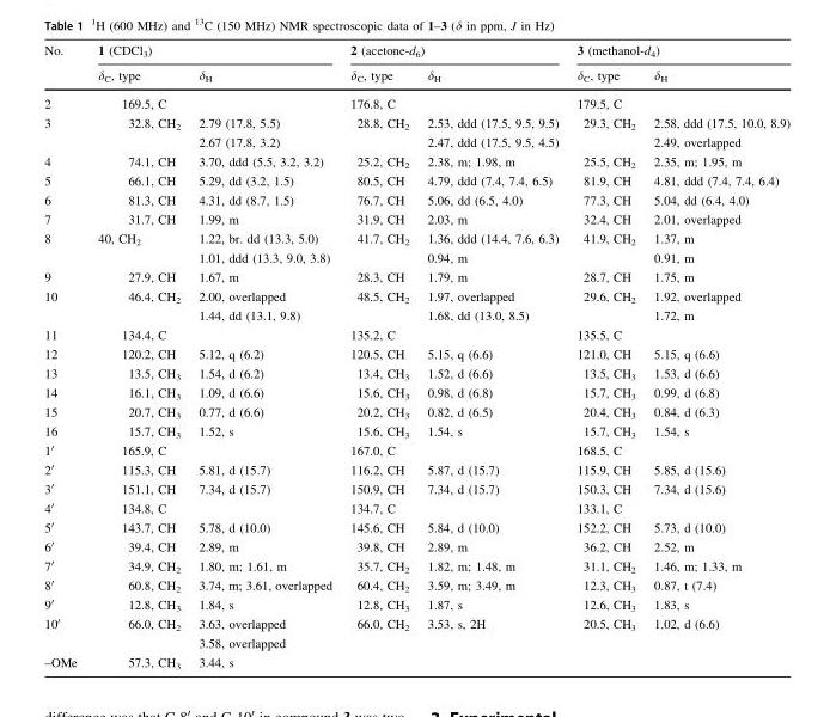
<table><thead><tr><td rowspan="2">No.</td><td colspan="2">1 (CDCl<sub>3</sub>)</td><td colspan="2">2 (acetone-d<sub>6</sub>)</td><td colspan="2">3 (methanol-d<sub>4</sub>)</td></tr><tr><td>δ<sub>C</sub>, type</td><td>δ<sub>H</sub></td><td>δ<sub>C</sub>, type</td><td>δ<sub>H</sub></td><td>δ<sub>C</sub>, type</td><td>δ<sub>H</sub></td></tr></thead><tbody><tr><td>2</td><td>169.5, C</td><td></td><td>176.8, C</td><td></td><td>179.5, C</td><td></td></tr><tr><td rowspan="2">3</td><td rowspan="2">32.8, CH<sub>2</sub></td><td>2.79 (17.8, 5.5)</td><td rowspan="2">28.8, CH<sub>2</sub></td><td>2.53, ddd (17.5, 9.5, 9.5)</td><td rowspan="2">29.3, CH<sub>2</sub></td><td>2.58, ddd (17.5, 10.0, 8.9)</td></tr><tr><td>2.67 (17.8, 3.2)</td><td>2.47, ddd (17.5, 9.5, 4.5)</td><td>2.49, overlapped</td></tr><tr><td>4</td><td>74.1, CH</td><td>3.70, ddd (5.5, 3.2, 3.2)</td><td>25.2, CH<sub>2</sub></td><td>2.38, m; 1.98, m</td><td>25.5, CH<sub>2</sub></td><td>2.35, m; 1.95, m</td></tr><tr><td>5</td><td>66.1, CH</td><td>5.29, dd (3.2, 1.5)</td><td>80.5, CH</td><td>4.79, ddd (7.4, 7.4, 6.5)</td><td>81.9, CH</td><td>4.81, ddd (7.4, 7.4, 6.4)</td></tr><tr><td>6</td><td>81.3, CH</td><td>4.31, dd (8.7, 1.5)</td><td>76.7, CH</td><td>5.06, dd (6.5, 4.0)</td><td>77.3, CH</td><td>5.04, dd (6.4, 4.0)</td></tr><tr><td>7</td><td>31.7, CH</td><td>1.99, m</td><td>31.9, CH</td><td>2.03, m</td><td>32.4, CH</td><td>2.01, overlapped</td></tr><tr><td rowspan="2">8</td><td rowspan="2">40, CH<sub>2</sub></td><td>1.22, br. dd (13.3, 5.0)</td><td rowspan="2">41.7, CH<sub>2</sub></td><td>1.36, ddd (14.4, 7.6, 6.3)</td><td rowspan="2">41.9, CH<sub>2</sub></td><td>1.37, m</td></tr><tr><td>1.01, ddd (13.3, 9.0, 3.8)</td><td>0.94, m</td><td>0.91, m</td></tr><tr><td>9</td><td>27.9, CH</td><td>1.67, m</td><td>28.3, CH</td><td>1.79, m</td><td>28.7, CH</td><td>1.75, m</td></tr><tr><td rowspan="2">10</td><td rowspan="2">46.4, CH<sub>2</sub></td><td>2.00, overlapped</td><td rowspan="2">48.5, CH<sub>2</sub></td><td>1.97, overlapped</td><td rowspan="2">29.6, CH<sub>2</sub></td><td>1.92, overlapped</td></tr><tr><td>1.44, dd (13.1, 9.8)</td><td>1.68, dd (13.0, 8.5)</td><td>1.72, m</td></tr><tr><td>11</td><td>134.4, C</td><td></td><td>135.2, C</td><td></td><td>135.5, C</td><td></td></tr><tr><td>12</td><td>120.2, CH</td><td>5.12, q (6.2)</td><td>120.5, CH</td><td>5.15, q (6.6)</td><td>121.0, CH</td><td>5.15, q (6.6)</td></tr><tr><td>13</td><td>13.5, CH<sub>3</sub></td><td>1.54, d (6.2)</td><td>13.4, CH<sub>3</sub></td><td>1.52, d (6.6)</td><td>13.5, CH<sub>3</sub></td><td>1.53, d (6.6)</td></tr><tr><td>14</td><td>16.1, CH<sub>3</sub></td><td>1.09, d (6.6)</td><td>15.6, CH<sub>3</sub></td><td>0.98, d (6.8)</td><td>15.7, CH<sub>3</sub></td><td>0.99, d (6.8)</td></tr><tr><td>15</td><td>20.7, CH<sub>3</sub></td><td>0.77, d (6.6)</td><td>20.2, CH<sub>3</sub></td><td>0.82, d (6.5)</td><td>20.4, CH<sub>3</sub></td><td>0.84, d (6.3)</td></tr><tr><td>16</td><td>15.7, CH<sub>3</sub></td><td rowspan="2">1.52, s</td><td>15.6, CH<sub>3</sub></td><td rowspan="2">1.54, s</td><td>15.7, CH<sub>3</sub></td><td rowspan="2">1.54, s</td></tr><tr><td>1′</td><td>165.9, C</td><td>167.0, C</td><td>168.5, C</td></tr><tr><td>2′</td><td>115.3, CH</td><td>5.81, d (15.7)</td><td>116.2, CH</td><td>5.87, d (15.7)</td><td>115.9, CH</td><td>5.85, d (15.6)</td></tr><tr><td>3′</td><td>151.1, CH</td><td rowspan="2">7.34, d (15.7)</td><td>150.9, CH</td><td rowspan="2">7.34, d (15.7)</td><td>150.3, CH</td><td rowspan="2">7.34, d (15.6)</td></tr><tr><td>4′</td><td>134.8, C</td><td>134.7, C</td><td>133.1, C</td></tr><tr><td>5′</td><td>143.7, CH</td><td>5.78, d (10.0)</td><td>145.6, CH</td><td>5.84, d (10.0)</td><td>152.2, CH</td><td>5.73, d (10.0)</td></tr><tr><td>6′</td><td>39.4, CH</td><td>2.89, m</td><td>39.8, CH</td><td>2.89, m</td><td>36.2, CH</td><td>2.52, m</td></tr><tr><td>7′</td><td>34.9, CH<sub>2</sub></td><td>1.80, m; 1.61, m</td><td>35.7, CH<sub>2</sub></td><td>1.82, m; 1.48, m</td><td>31.1, CH<sub>2</sub></td><td>1.46, m; 1.33, m</td></tr><tr><td>8′</td><td>60.8, CH<sub>2</sub></td><td>3.74, m; 3.61, overlapped</td><td>60.4, CH<sub>2</sub></td><td>3.59, m; 3.49, m</td><td>12.3, CH<sub>3</sub></td><td>0.87, t (7.4)</td></tr><tr><td>9′</td><td>12.8, CH<sub>3</sub></td><td>1.84, s</td><td>12.8, CH<sub>3</sub></td><td>1.87, s</td><td>12.6, CH<sub>3</sub></td><td>1.83, s</td></tr><tr><td rowspan="2">10′</td><td rowspan="2">66.0, CH<sub>2</sub></td><td>3.63, overlapped</td><td rowspan="2">66.0, CH<sub>2</sub></td><td rowspan="2">3.53, s, 2H</td><td rowspan="2">20.5, CH<sub>3</sub></td><td rowspan="2">1.02, d (6.6)</td></tr><tr><td>3.58, overlapped</td></tr><tr><td>–OMe</td><td>57.3, CH<sub>3</sub></td><td>3.44, s</td><td></td><td></td><td></td><td></td></tr></tbody></table>